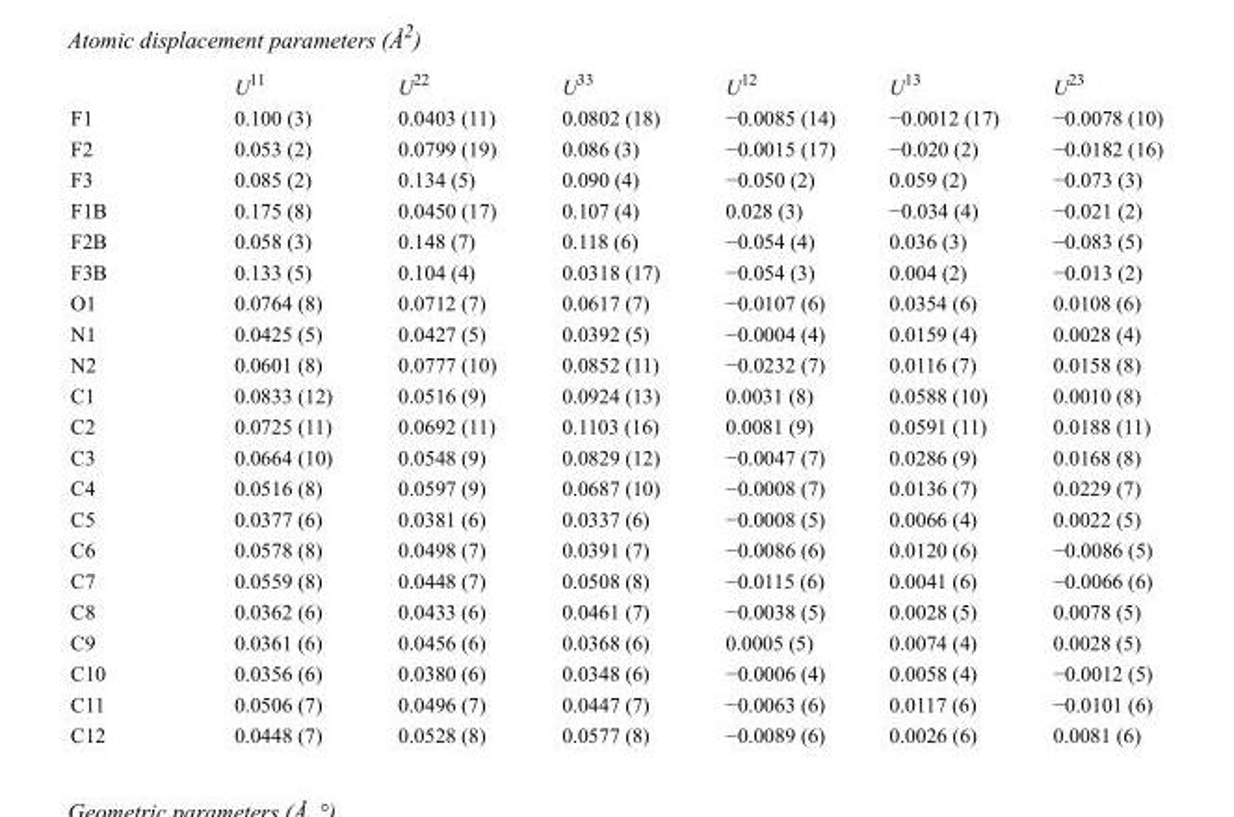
<table><thead><tr><td></td><td>U<sup>11</sup></td><td>U<sup>22</sup></td><td>U<sup>33</sup></td><td>U<sup>12</sup></td><td>U<sup>13</sup></td><td>U<sup>23</sup></td></tr></thead><tbody><tr><td>F1</td><td>0.100 (3)</td><td>0.0403 (11)</td><td>0.0802 (18)</td><td>−0.0085 (14)</td><td>−0.0012 (17)</td><td>−0.0078 (10)</td></tr><tr><td>F2</td><td>0.053 (2)</td><td>0.0799 (19)</td><td>0.086 (3)</td><td>−0.0015 (17)</td><td>−0.020 (2)</td><td>−0.0182 (16)</td></tr><tr><td>F3</td><td>0.085 (2)</td><td>0.134 (5)</td><td>0.090 (4)</td><td>−0.050 (2)</td><td>0.059 (2)</td><td>−0.073 (3)</td></tr><tr><td>F1B</td><td>0.175 (8)</td><td>0.0450 (17)</td><td>0.107 (4)</td><td>0.028 (3)</td><td>−0.034 (4)</td><td>−0.021 (2)</td></tr><tr><td>F2B</td><td>0.058 (3)</td><td>0.148 (7)</td><td>0.118 (6)</td><td>−0.054 (4)</td><td>0.036 (3)</td><td>−0.083 (5)</td></tr><tr><td>F3B</td><td>0.133 (5)</td><td>0.104 (4)</td><td>0.0318 (17)</td><td>−0.054 (3)</td><td>0.004 (2)</td><td>−0.013 (2)</td></tr><tr><td>O1</td><td>0.0764 (8)</td><td>0.0712 (7)</td><td>0.0617 (7)</td><td>−0.0107 (6)</td><td>0.0354 (6)</td><td>0.0108 (6)</td></tr><tr><td>N1</td><td>0.0425 (5)</td><td>0.0427 (5)</td><td>0.0392 (5)</td><td>−0.0004 (4)</td><td>0.0159 (4)</td><td>0.0028 (4)</td></tr><tr><td>N2</td><td>0.0601 (8)</td><td>0.0777 (10)</td><td>0.0852 (11)</td><td>−0.0232 (7)</td><td>0.0116 (7)</td><td>0.0158 (8)</td></tr><tr><td>C1</td><td>0.0833 (12)</td><td>0.0516 (9)</td><td>0.0924 (13)</td><td>0.0031 (8)</td><td>0.0588 (10)</td><td>0.0010 (8)</td></tr><tr><td>C2</td><td>0.0725 (11)</td><td>0.0692 (11)</td><td>0.1103 (16)</td><td>0.0081 (9)</td><td>0.0591 (11)</td><td>0.0188 (11)</td></tr><tr><td>C3</td><td>0.0664 (10)</td><td>0.0548 (9)</td><td>0.0829 (12)</td><td>−0.0047 (7)</td><td>0.0286 (9)</td><td>0.0168 (8)</td></tr><tr><td>C4</td><td>0.0516 (8)</td><td>0.0597 (9)</td><td>0.0687 (10)</td><td>−0.0008 (7)</td><td>0.0136 (7)</td><td>0.0229 (7)</td></tr><tr><td>C5</td><td>0.0377 (6)</td><td>0.0381 (6)</td><td>0.0337 (6)</td><td>−0.0008 (5)</td><td>0.0066 (4)</td><td>0.0022 (5)</td></tr><tr><td>C6</td><td>0.0578 (8)</td><td>0.0498 (7)</td><td>0.0391 (7)</td><td>−0.0086 (6)</td><td>0.0120 (6)</td><td>−0.0086 (5)</td></tr><tr><td>C7</td><td>0.0559 (8)</td><td>0.0448 (7)</td><td>0.0508 (8)</td><td>−0.0115 (6)</td><td>0.0041 (6)</td><td>−0.0066 (6)</td></tr><tr><td>C8</td><td>0.0362 (6)</td><td>0.0433 (6)</td><td>0.0461 (7)</td><td>−0.0038 (5)</td><td>0.0028 (5)</td><td>0.0078 (5)</td></tr><tr><td>C9</td><td>0.0361 (6)</td><td>0.0456 (6)</td><td>0.0368 (6)</td><td>0.0005 (5)</td><td>0.0074 (4)</td><td>0.0028 (5)</td></tr><tr><td>C10</td><td>0.0356 (6)</td><td>0.0380 (6)</td><td>0.0348 (6)</td><td>−0.0006 (4)</td><td>0.0058 (4)</td><td>−0.0012 (5)</td></tr><tr><td>C11</td><td>0.0506 (7)</td><td>0.0496 (7)</td><td>0.0447 (7)</td><td>−0.0063 (6)</td><td>0.0117 (6)</td><td>−0.0101 (6)</td></tr><tr><td>C12</td><td>0.0448 (7)</td><td>0.0528 (8)</td><td>0.0577 (8)</td><td>−0.0089 (6)</td><td>0.0026 (6)</td><td>0.0081 (6)</td></tr></tbody></table>